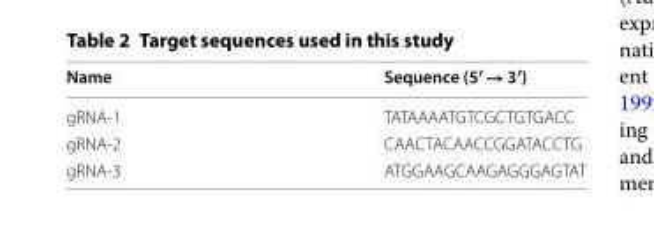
<table><thead><tr><td>Name</td><td>Sequence (5′ → 3′)</td></tr></thead><tbody><tr><td>gRNA‑1</td><td>TATAAAATGTCGCTGTGACC</td></tr><tr><td>gRNA‑2</td><td>CAACTACAACCGGATACCTG</td></tr><tr><td>gRNA‑3</td><td>ATGGAAGCAAGAGGGAGTAT</td></tr></tbody></table>